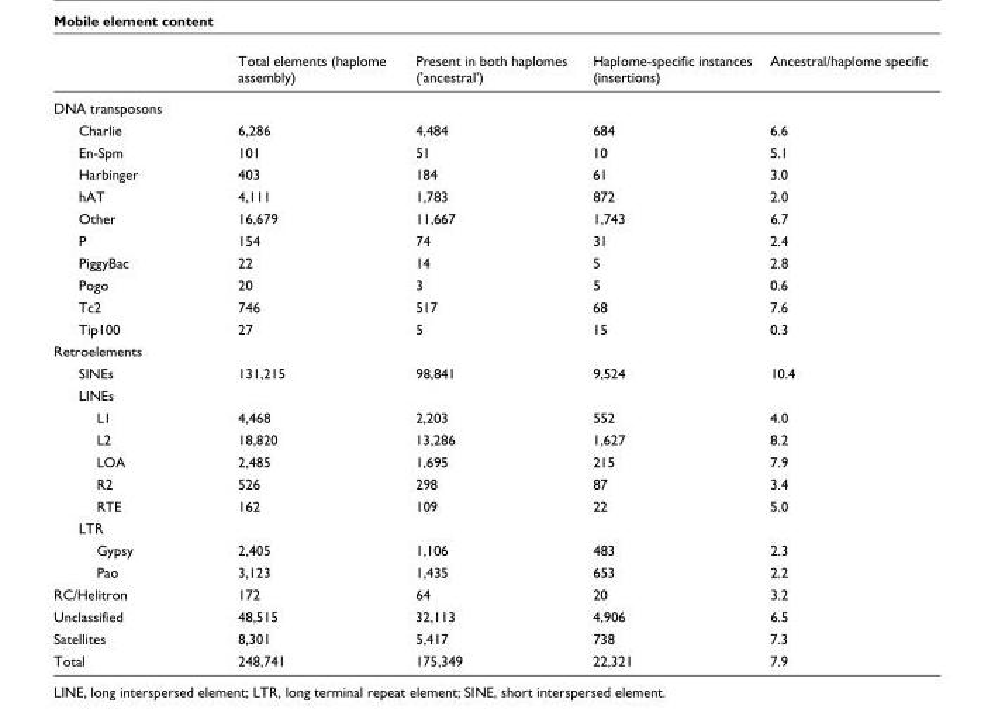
<table><thead><tr><td></td><td>Total elements (haplome assembly)</td><td>Present in both haplomes (&#x27;ancestral&#x27;)</td><td>Haplome-specific instances (insertions)</td><td>Ancestral/haplome specific</td></tr></thead><tbody><tr><td colspan="5">DNA transposons</td></tr><tr><td>Charlie</td><td>6,286</td><td>4,484</td><td>684</td><td>6.6</td></tr><tr><td>En-Spm</td><td>101</td><td>51</td><td>10</td><td>5.1</td></tr><tr><td>Harbinger</td><td>403</td><td>184</td><td>61</td><td>3.0</td></tr><tr><td>hAT</td><td>4,111</td><td>1,783</td><td>872</td><td>2.0</td></tr><tr><td>Other</td><td>16,679</td><td>11,667</td><td>1,743</td><td>6.7</td></tr><tr><td>P</td><td>154</td><td>74</td><td>31</td><td>2.4</td></tr><tr><td>PiggyBac</td><td>22</td><td>14</td><td>5</td><td>2.8</td></tr><tr><td>Pogo</td><td>20</td><td>3</td><td>5</td><td>0.6</td></tr><tr><td>Tc2</td><td>746</td><td>517</td><td>68</td><td>7.6</td></tr><tr><td>Tip100</td><td>27</td><td>5</td><td>15</td><td>0.3</td></tr><tr><td colspan="5">Retroelements</td></tr><tr><td>SINEs</td><td>131,215</td><td>98,841</td><td>9,524</td><td>10.4</td></tr><tr><td colspan="5">LINEs</td></tr><tr><td>L1</td><td>4,468</td><td>2,203</td><td>552</td><td>4.0</td></tr><tr><td>L2</td><td>18,820</td><td>13,286</td><td>1,627</td><td>8.2</td></tr><tr><td>LOA</td><td>2,485</td><td>1,695</td><td>215</td><td>7.9</td></tr><tr><td>R2</td><td>526</td><td>298</td><td>87</td><td>3.4</td></tr><tr><td>RTE</td><td>162</td><td>109</td><td>22</td><td>5.0</td></tr><tr><td colspan="5">LTR</td></tr><tr><td>Gypsy</td><td>2,405</td><td>1,106</td><td>483</td><td>2.3</td></tr><tr><td>Pao</td><td>3,123</td><td>1,435</td><td>653</td><td>2.2</td></tr><tr><td>RC/Helitron</td><td>172</td><td>64</td><td>20</td><td>3.2</td></tr><tr><td>Unclassified</td><td>48,515</td><td>32,113</td><td>4,906</td><td>6.5</td></tr><tr><td>Satellites</td><td>8,301</td><td>5,417</td><td>738</td><td>7.3</td></tr><tr><td>Total</td><td>248,741</td><td>175,349</td><td>22,321</td><td>7.9</td></tr></tbody></table>